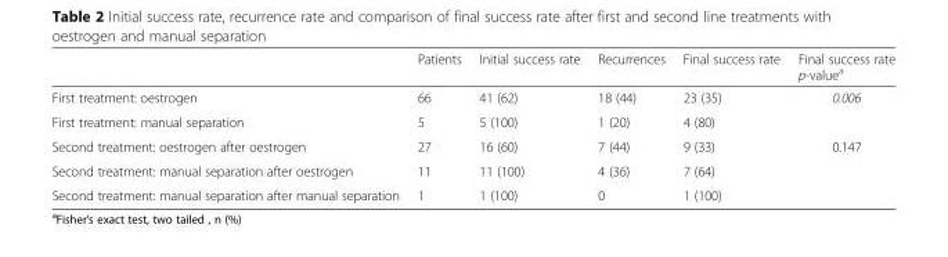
<table><thead><tr><td></td><td>Patients</td><td>Initial success rate</td><td>Recurrences</td><td>Final success rate</td><td>Final success rate p-value<sup>a</sup></td></tr></thead><tbody><tr><td>First treatment: oestrogen</td><td>66</td><td>41 (62)</td><td>18 (44)</td><td>23 (35)</td><td rowspan="2">0.006</td></tr><tr><td>First treatment: manual separation</td><td>5</td><td>5 (100)</td><td>1 (20)</td><td>4 (80)</td></tr><tr><td>Second treatment: oestrogen after oestrogen</td><td>27</td><td>16 (60)</td><td>7 (44)</td><td>9 (33)</td><td rowspan="2">0.147</td></tr><tr><td>Second treatment: manual separation after oestrogen</td><td>11</td><td>11 (100)</td><td>4 (36)</td><td>7 (64)</td></tr><tr><td>Second treatment: manual separation after manual separation</td><td>1</td><td>1 (100)</td><td>0</td><td>1 (100)</td><td></td></tr></tbody></table>